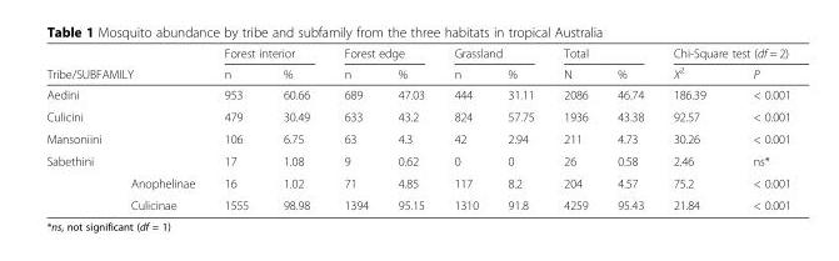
<table><thead><tr><td></td><td></td><td colspan="2">Forest interior</td><td colspan="2">Forest edge</td><td colspan="2">Grassland</td><td colspan="2">Total</td><td colspan="2">Chi-Square test (df = 2)</td></tr><tr><td colspan="2">Tribe/SUBFAMILY</td><td>n</td><td>%</td><td>n</td><td>%</td><td>n</td><td>%</td><td>N</td><td>%</td><td>X<sup>2</sup></td><td>P</td></tr></thead><tbody><tr><td>Aedini</td><td></td><td>953</td><td>60.66</td><td>689</td><td>47.03</td><td>444</td><td>31.11</td><td>2086</td><td>46.74</td><td>186.39</td><td>&lt; 0.001</td></tr><tr><td>Culicini</td><td></td><td>479</td><td>30.49</td><td>633</td><td>43.2</td><td>824</td><td>57.75</td><td>1936</td><td>43.38</td><td>92.57</td><td>&lt; 0.001</td></tr><tr><td>Mansoniini</td><td></td><td>106</td><td>6.75</td><td>63</td><td>4.3</td><td>42</td><td>2.94</td><td>211</td><td>4.73</td><td>30.26</td><td>&lt; 0.001</td></tr><tr><td rowspan="3">Sabethini</td><td></td><td>17</td><td>1.08</td><td>9</td><td>0.62</td><td>0</td><td>0</td><td>26</td><td>0.58</td><td>2.46</td><td>ns*</td></tr><tr><td>Anophelinae</td><td>16</td><td>1.02</td><td>71</td><td>4.85</td><td>117</td><td>8.2</td><td>204</td><td>4.57</td><td>75.2</td><td>&lt; 0.001</td></tr><tr><td>Culicinae</td><td>1555</td><td>98.98</td><td>1394</td><td>95.15</td><td>1310</td><td>91.8</td><td>4259</td><td>95.43</td><td>21.84</td><td>&lt; 0.001</td></tr></tbody></table>